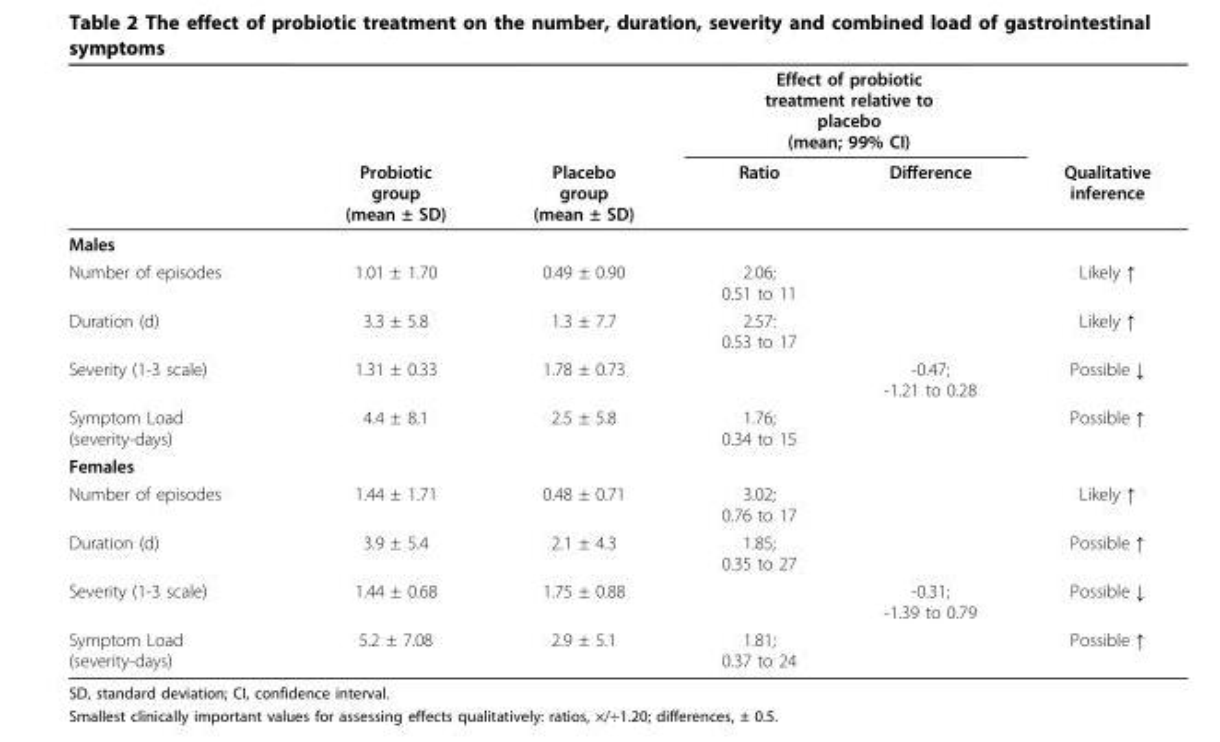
<table><thead><tr><td rowspan="2"></td><td rowspan="2">Probiotic group (mean ± SD)</td><td rowspan="2">Placebo group (mean ± SD)</td><td colspan="2">Effect of probiotic treatment relative to placebo (mean; 99% CI)</td><td rowspan="2">Qualitative inference</td></tr><tr><td>Ratio</td><td>Difference</td></tr></thead><tbody><tr><td colspan="6">Males</td></tr><tr><td>Number of episodes</td><td>1.01 ± 1.70</td><td>0.49 ± 0.90</td><td>2.06; 0.51 to 11</td><td></td><td>Likely ↑</td></tr><tr><td>Duration (d)</td><td>3.3 ± 5.8</td><td>1.3 ± 7.7</td><td>2.57: 0.53 to 17</td><td></td><td>Likely ↑</td></tr><tr><td>Severity (1-3 scale)</td><td>1.31 ± 0.33</td><td>1.78 ± 0.73</td><td></td><td>-0.47; -1.21 to 0.28</td><td>Possible ↓</td></tr><tr><td>Symptom Load (severity-days)</td><td>4.4 ± 8.1</td><td>2.5 ± 5.8</td><td>1.76; 0.34 to 15</td><td></td><td>Possible ↑</td></tr><tr><td colspan="6">Females</td></tr><tr><td>Number of episodes</td><td>1.44 ± 1.71</td><td>0.48 ± 0.71</td><td>3.02; 0.76 to 17</td><td></td><td>Likely ↑</td></tr><tr><td>Duration (d)</td><td>3.9 ± 5.4</td><td>2.1 ± 4.3</td><td>1.85; 0.35 to 27</td><td></td><td>Possible ↑</td></tr><tr><td>Severity (1-3 scale)</td><td>1.44 ± 0.68</td><td>1.75 ± 0.88</td><td></td><td>-0.31; -1.39 to 0.79</td><td>Possible ↓</td></tr><tr><td>Symptom Load (severity-days)</td><td>5.2 ± 7.08</td><td>2.9 ± 5.1</td><td>1.81; 0.37 to 24</td><td></td><td>Possible ↑</td></tr></tbody></table>